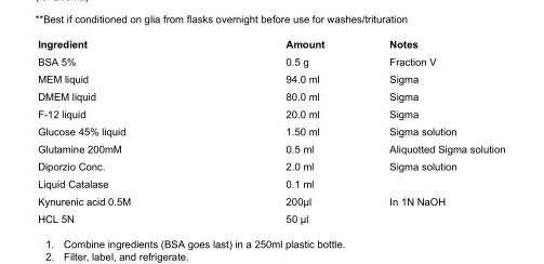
<table><tbody><tr><td>Ingredient</td><td>Amount</td><td>Notes</td></tr><tr><td>BSA 5%</td><td>0.5 g</td><td>Fraction V</td></tr><tr><td>MEM liquid</td><td>94.0 ml</td><td>Sigma</td></tr><tr><td>DMEM liquid</td><td>80.0 ml</td><td>Sigma</td></tr><tr><td>F-12 liquid</td><td>20.0 ml</td><td>Sigma</td></tr><tr><td>Glucose 45% liquid</td><td>1.50 ml</td><td>Sigma solution</td></tr><tr><td>Glutamine 200mM</td><td>0.5 ml</td><td>Aliquotted Sigma solution</td></tr><tr><td>Diporzio Conc.</td><td>2.0 ml</td><td>Sigma solution</td></tr><tr><td>Liquid Catalase</td><td>0.1 ml</td><td></td></tr><tr><td>Kynurenic acid 0.5M</td><td>200μl</td><td>In 1N NaOH</td></tr><tr><td>HCL 5N</td><td>50 μl</td><td></td></tr></tbody></table>